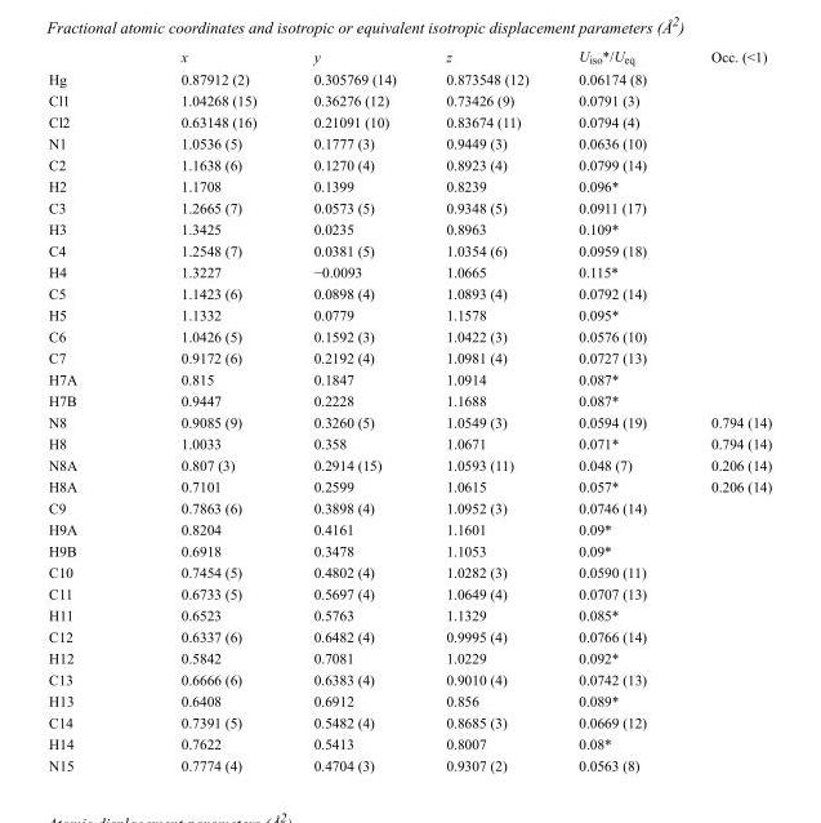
<table><thead><tr><td></td><td>x</td><td>y</td><td>z</td><td>U<sub>iso</sub>*/U<sub>eq</sub></td><td>Occ. (&lt;1)</td></tr></thead><tbody><tr><td>Hg</td><td>0.87912 (2)</td><td>0.305769 (14)</td><td>0.873548 (12)</td><td>0.06174 (8)</td><td></td></tr><tr><td>Cl1</td><td>1.04268 (15)</td><td>0.36276 (12)</td><td>0.73426 (9)</td><td>0.0791 (3)</td><td></td></tr><tr><td>Cl2</td><td>0.63148 (16)</td><td>0.21091 (10)</td><td>0.83674 (11)</td><td>0.0794 (4)</td><td></td></tr><tr><td>N1</td><td>1.0536 (5)</td><td>0.1777 (3)</td><td>0.9449 (3)</td><td>0.0636 (10)</td><td></td></tr><tr><td>C2</td><td>1.1638 (6)</td><td>0.1270 (4)</td><td>0.8923 (4)</td><td>0.0799 (14)</td><td></td></tr><tr><td>H2</td><td>1.1708</td><td>0.1399</td><td>0.8239</td><td>0.096*</td><td></td></tr><tr><td>C3</td><td>1.2665 (7)</td><td>0.0573 (5)</td><td>0.9348 (5)</td><td>0.0911 (17)</td><td></td></tr><tr><td>H3</td><td>1.3425</td><td>0.0235</td><td>0.8963</td><td>0.109*</td><td></td></tr><tr><td>C4</td><td>1.2548 (7)</td><td>0.0381 (5)</td><td>1.0354 (6)</td><td>0.0959 (18)</td><td></td></tr><tr><td>H4</td><td>1.3227</td><td>−0.0093</td><td>1.0665</td><td>0.115*</td><td></td></tr><tr><td>C5</td><td>1.1423 (6)</td><td>0.0898 (4)</td><td>1.0893 (4)</td><td>0.0792 (14)</td><td></td></tr><tr><td>H5</td><td>1.1332</td><td>0.0779</td><td>1.1578</td><td>0.095*</td><td></td></tr><tr><td>C6</td><td>1.0426 (5)</td><td>0.1592 (3)</td><td>1.0422 (3)</td><td>0.0576 (10)</td><td></td></tr><tr><td>C7</td><td>0.9172 (6)</td><td>0.2192 (4)</td><td>1.0981 (4)</td><td>0.0727 (13)</td><td></td></tr><tr><td>H7A</td><td>0.815</td><td>0.1847</td><td>1.0914</td><td>0.087*</td><td></td></tr><tr><td>H7B</td><td>0.9447</td><td>0.2228</td><td>1.1688</td><td>0.087*</td><td></td></tr><tr><td>N8</td><td>0.9085 (9)</td><td>0.3260 (5)</td><td>1.0549 (3)</td><td>0.0594 (19)</td><td>0.794 (14)</td></tr><tr><td>H8</td><td>1.0033</td><td>0.358</td><td>1.0671</td><td>0.071*</td><td>0.794 (14)</td></tr><tr><td>N8A</td><td>0.807 (3)</td><td>0.2914 (15)</td><td>1.0593 (11)</td><td>0.048 (7)</td><td>0.206 (14)</td></tr><tr><td>H8A</td><td>0.7101</td><td>0.2599</td><td>1.0615</td><td>0.057*</td><td>0.206 (14)</td></tr><tr><td>C9</td><td>0.7863 (6)</td><td>0.3898 (4)</td><td>1.0952 (3)</td><td>0.0746 (14)</td><td></td></tr><tr><td>H9A</td><td>0.8204</td><td>0.4161</td><td>1.1601</td><td>0.09*</td><td></td></tr><tr><td>H9B</td><td>0.6918</td><td>0.3478</td><td>1.1053</td><td>0.09*</td><td></td></tr><tr><td>C10</td><td>0.7454 (5)</td><td>0.4802 (4)</td><td>1.0282 (3)</td><td>0.0590 (11)</td><td></td></tr><tr><td>C11</td><td>0.6733 (5)</td><td>0.5697 (4)</td><td>1.0649 (4)</td><td>0.0707 (13)</td><td></td></tr><tr><td>H11</td><td>0.6523</td><td>0.5763</td><td>1.1329</td><td>0.085*</td><td></td></tr><tr><td>C12</td><td>0.6337 (6)</td><td>0.6482 (4)</td><td>0.9995 (4)</td><td>0.0766 (14)</td><td></td></tr><tr><td>H12</td><td>0.5842</td><td>0.7081</td><td>1.0229</td><td>0.092*</td><td></td></tr><tr><td>C13</td><td>0.6666 (6)</td><td>0.6383 (4)</td><td>0.9010 (4)</td><td>0.0742 (13)</td><td></td></tr><tr><td>H13</td><td>0.6408</td><td>0.6912</td><td>0.856</td><td>0.089*</td><td></td></tr><tr><td>C14</td><td>0.7391 (5)</td><td>0.5482 (4)</td><td>0.8685 (3)</td><td>0.0669 (12)</td><td></td></tr><tr><td>H14</td><td>0.7622</td><td>0.5413</td><td>0.8007</td><td>0.08*</td><td></td></tr><tr><td>N15</td><td>0.7774 (4)</td><td>0.4704 (3)</td><td>0.9307 (2)</td><td>0.0563 (8)</td><td></td></tr></tbody></table>